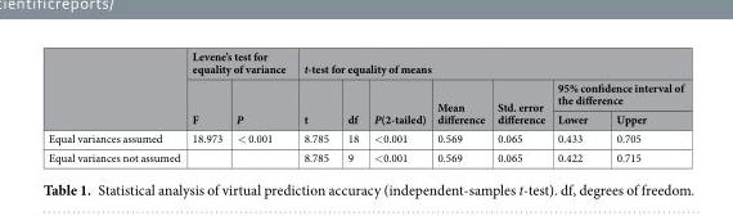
<table><thead><tr><td rowspan="3"></td><td colspan="2">Levene’s test for equality of variance</td><td colspan="7">t-test for equality of means</td></tr><tr><td rowspan="2">F</td><td rowspan="2">P</td><td rowspan="2">t</td><td rowspan="2">df</td><td rowspan="2">P(2-tailed)</td><td rowspan="2">Mean difference</td><td rowspan="2">Std. error difference</td><td colspan="2">95% confidence interval of the difference</td></tr><tr><td>Lower</td><td>Upper</td></tr></thead><tbody><tr><td>Equal variances assumed</td><td>18.973</td><td>&lt; 0.001</td><td>8.785</td><td>18</td><td>&lt;0.001</td><td>0.569</td><td>0.065</td><td>0.433</td><td>0.705</td></tr><tr><td>Equal variances not assumed</td><td></td><td></td><td>8.785</td><td>9</td><td>&lt;0.001</td><td>0.569</td><td>0.065</td><td>0.422</td><td>0.715</td></tr></tbody></table>